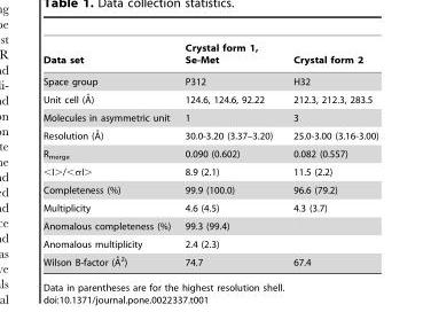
<table><thead><tr><td>Data set</td><td>Crystal form 1, Se-Met</td><td>Crystal form 2</td></tr></thead><tbody><tr><td>Space group</td><td>P312</td><td>H32</td></tr><tr><td>Unit cell (A˚)</td><td>124.6, 124.6, 92.22</td><td>212.3, 212.3, 283.5</td></tr><tr><td>Molecules in asymmetric unit</td><td>1</td><td>3</td></tr><tr><td>Resolution (A˚)</td><td>30.0-3.20 (3.37–3.20)</td><td>25.0-3.00 (3.16-3.00)</td></tr><tr><td>R<sub>merge</sub></td><td>0.090 (0.602)</td><td>0.082 (0.557)</td></tr><tr><td>&lt;I&gt;/&lt;σI&gt;</td><td>8.9 (2.1)</td><td>11.5 (2.2)</td></tr><tr><td>Completeness (%)</td><td>99.9 (100.0)</td><td>96.6 (79.2)</td></tr><tr><td>Multiplicity</td><td>4.6 (4.5)</td><td>4.3 (3.7)</td></tr><tr><td>Anomalous completeness (%)</td><td>99.3 (99.4)</td><td></td></tr><tr><td>Anomalous multiplicity</td><td>2.4 (2.3)</td><td></td></tr><tr><td>Wilson B-factor (A˚2)</td><td>74.7</td><td>67.4</td></tr></tbody></table>